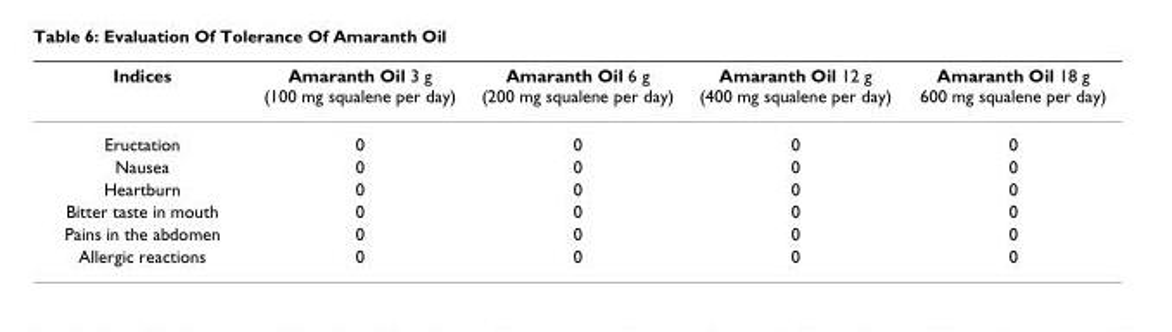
<table><thead><tr><td>Indices</td><td>Amaranth Oil 3 g (100 mg squalene per day)</td><td>Amaranth Oil 6 g (200 mg squalene per day)</td><td>Amaranth Oil 12 g (400 mg squalene per day)</td><td>Amaranth Oil 18 g 600 mg squalene per day)</td></tr></thead><tbody><tr><td>Eructation</td><td>0</td><td>0</td><td>0</td><td>0</td></tr><tr><td>Nausea</td><td>0</td><td>0</td><td>0</td><td>0</td></tr><tr><td>Heartburn</td><td>0</td><td>0</td><td>0</td><td>0</td></tr><tr><td>Bitter taste in mouth</td><td>0</td><td>0</td><td>0</td><td>0</td></tr><tr><td>Pains in the abdomen</td><td>0</td><td>0</td><td>0</td><td>0</td></tr><tr><td>Allergic reactions</td><td>0</td><td>0</td><td>0</td><td>0</td></tr></tbody></table>